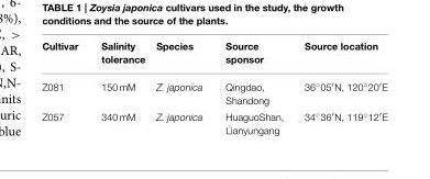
<table><thead><tr><td>Cultivar</td><td>Salinity tolerance</td><td>Species</td><td>Source sponsor</td><td>Source location</td></tr></thead><tbody><tr><td>Z081</td><td>150 mM</td><td>Z. japonica</td><td>Qingdao, Shandong</td><td>36◦05′N, 120◦20′E</td></tr><tr><td>Z057</td><td>340 mM</td><td>Z. japonica</td><td>HuaguoShan, Lianyungang</td><td>34◦36′N, 119◦12′E</td></tr></tbody></table>